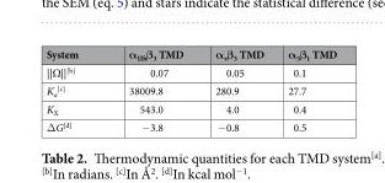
<table><thead><tr><td>System</td><td>α<sub>IIb</sub>β<sub>3</sub> TMD</td><td>α<sub>v</sub>β<sub>3</sub> TMD</td><td>α<sub>5</sub>β<sub>1</sub> TMD</td></tr></thead><tbody><tr><td>||Ω||<sup>[b]</sup></td><td>0.07</td><td>0.05</td><td>0.1</td></tr><tr><td>K<sub>a</sub> <sup>[c]</sup></td><td>38009.8</td><td>280.9</td><td>27.7</td></tr><tr><td>K<sub>X</sub></td><td>543.0</td><td>4.0</td><td>0.4</td></tr><tr><td>ΔG<sup>[d]</sup></td><td>−3.8</td><td>−0.8</td><td>0.5</td></tr></tbody></table>